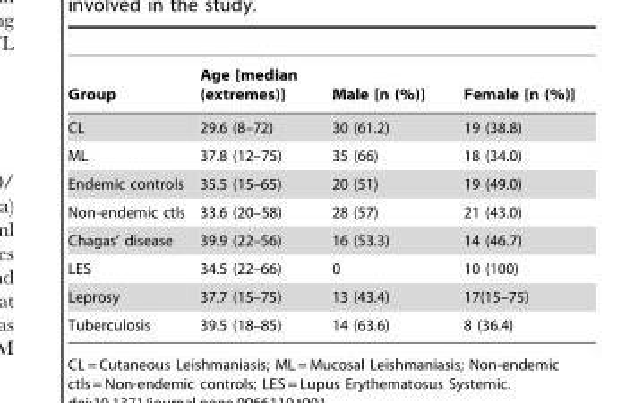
<table><thead><tr><td>Group</td><td>Age [median (extremes)]</td><td>Male [n (%)]</td><td>Female [n (%)]</td></tr></thead><tbody><tr><td>CL</td><td>29.6 (8–72)</td><td>30 (61.2)</td><td>19 (38.8)</td></tr><tr><td>ML</td><td>37.8 (12–75)</td><td>35 (66)</td><td>18 (34.0)</td></tr><tr><td>Endemic controls</td><td>35.5 (15–65)</td><td>20 (51)</td><td>19 (49.0)</td></tr><tr><td>Non-endemic ctls</td><td>33.6 (20–58)</td><td>28 (57)</td><td>21 (43.0)</td></tr><tr><td>Chagas’ disease</td><td>39.9 (22–56)</td><td>16 (53.3)</td><td>14 (46.7)</td></tr><tr><td>LES</td><td>34.5 (22–66)</td><td>0</td><td>10 (100)</td></tr><tr><td>Leprosy</td><td>37.7 (15–75)</td><td>13 (43.4)</td><td>17(15–75)</td></tr><tr><td>Tuberculosis</td><td>39.5 (18–85)</td><td>14 (63.6)</td><td>8 (36.4)</td></tr></tbody></table>